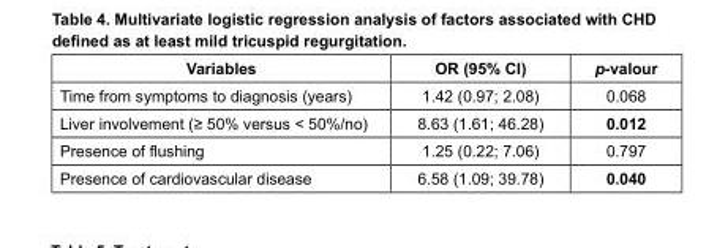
<table><thead><tr><td>Variables</td><td>OR (95% CI)</td><td>p-valour</td></tr></thead><tbody><tr><td>Time from symptoms to diagnosis (years)</td><td>1.42 (0.97; 2.08)</td><td>0.068</td></tr><tr><td>Liver involvement (≥ 50% versus &lt; 50%/no)</td><td>8.63 (1.61; 46.28)</td><td>0.012</td></tr><tr><td>Presence of flushing</td><td>1.25 (0.22; 7.06)</td><td>0.797</td></tr><tr><td>Presence of cardiovascular disease</td><td>6.58 (1.09; 39.78)</td><td>0.040</td></tr></tbody></table>